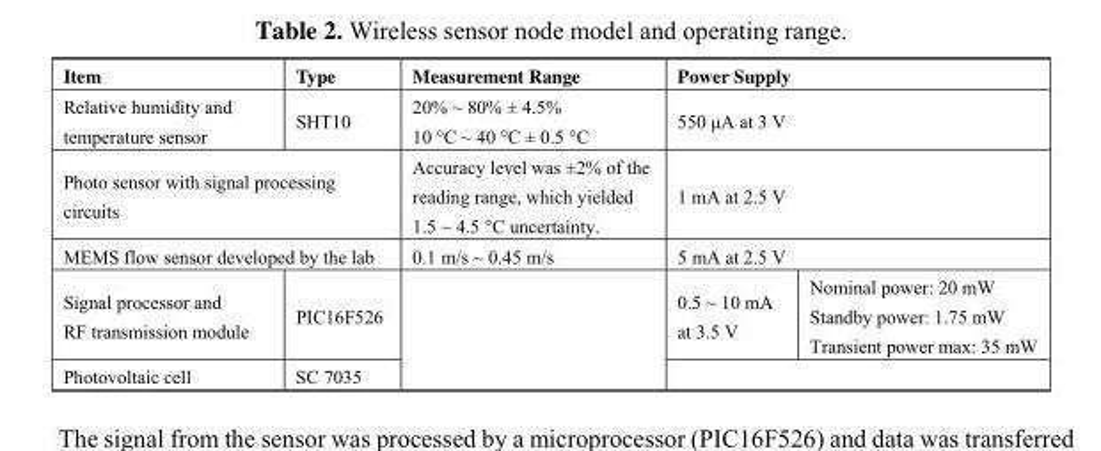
<table><thead><tr><td>Item</td><td>Type</td><td>Measurement Range</td><td colspan="2">Power Supply</td></tr></thead><tbody><tr><td rowspan="2">Relative humidity and temperature sensor</td><td rowspan="2">SHT10</td><td>20% ~ 80% ± 4.5%</td><td rowspan="2" colspan="2">550 μA at 3 V</td></tr><tr><td>10 °C ~ 40 °C ± 0.5 °C</td></tr><tr><td colspan="2">Photo sensor with signal processing circuits</td><td>Accuracy level was ±2% of the reading range, which yielded 1.5 ~ 4.5 °C uncertainty.</td><td colspan="2">1 mA at 2.5 V</td></tr><tr><td colspan="2">MEMS flow sensor developed by the lab</td><td>0.1 m/s ~ 0.45 m/s</td><td colspan="2">5 mA at 2.5 V</td></tr><tr><td rowspan="3">Signal processor and RF transmission module</td><td rowspan="3">PIC16F526</td><td rowspan="4"></td><td rowspan="3">0.5 ~ 10 mA at 3.5 V</td><td>Nominal power: 20 mW</td></tr><tr><td>Standby power: 1.75 mW</td></tr><tr><td>Transient power max: 35 mW</td></tr><tr><td>Photovoltaic cell</td><td>SC 7035</td><td colspan="2"></td></tr></tbody></table>